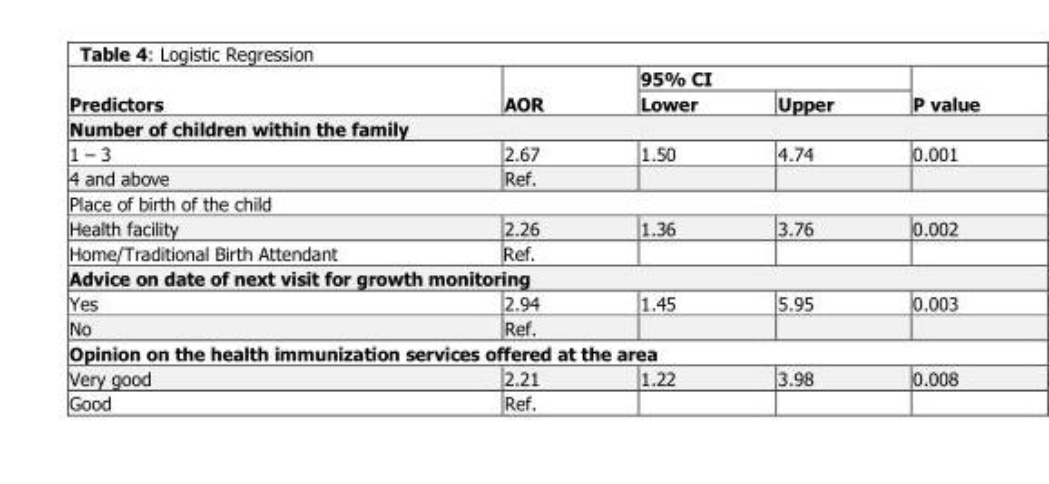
<table><thead><tr><td rowspan="2">Predictors</td><td rowspan="2">AOR</td><td colspan="2">95% CI</td><td rowspan="2">P value</td></tr><tr><td>Lower</td><td>Upper</td></tr></thead><tbody><tr><td colspan="5">Number of children within the family</td></tr><tr><td>1 – 3</td><td>2.67</td><td>1.50</td><td>4.74</td><td>0.001</td></tr><tr><td>4 and above</td><td>Ref.</td><td></td><td></td><td></td></tr><tr><td colspan="5">Place of birth of the child</td></tr><tr><td>Health facility</td><td>2.26</td><td>1.36</td><td>3.76</td><td>0.002</td></tr><tr><td>Home/Traditional Birth Attendant</td><td>Ref.</td><td></td><td></td><td></td></tr><tr><td colspan="5">Advice on date of next visit for growth monitoring</td></tr><tr><td>Yes</td><td>2.94</td><td>1.45</td><td>5.95</td><td>0.003</td></tr><tr><td>No</td><td>Ref.</td><td></td><td></td><td></td></tr><tr><td colspan="5">Opinion on the health immunization services offered at the area</td></tr><tr><td>Very good</td><td>2.21</td><td>1.22</td><td>3.98</td><td>0.008</td></tr><tr><td>Good</td><td>Ref.</td><td></td><td></td><td></td></tr></tbody></table>